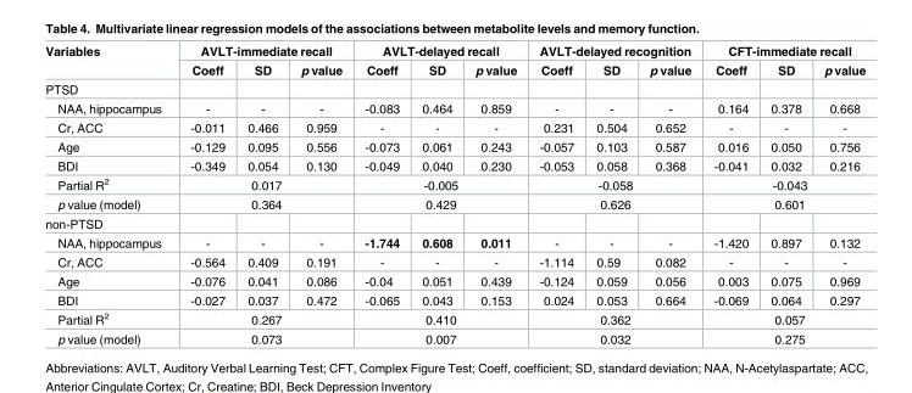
<table><thead><tr><td rowspan="2">Variables</td><td colspan="3">AVLT-immediate recall</td><td colspan="3">AVLT-delayed recall</td><td colspan="3">AVLT-delayed recognition</td><td colspan="3">CFT-immediate recall</td></tr><tr><td>Coeff</td><td>SD</td><td>p value</td><td>Coeff</td><td>SD</td><td>p value</td><td>Coeff</td><td>SD</td><td>p value</td><td>Coeff</td><td>SD</td><td>p value</td></tr></thead><tbody><tr><td colspan="13">PTSD</td></tr><tr><td>NAA, hippocampus</td><td>-</td><td>-</td><td>-</td><td>-0.083</td><td>0.464</td><td>0.859</td><td>-</td><td>-</td><td>-</td><td>0.164</td><td>0.378</td><td>0.668</td></tr><tr><td>Cr, ACC</td><td>-0.011</td><td>0.466</td><td>0.959</td><td>-</td><td>-</td><td>-</td><td>0.231</td><td>0.504</td><td>0.652</td><td>-</td><td>-</td><td>-</td></tr><tr><td>Age</td><td>-0.129</td><td>0.095</td><td>0.556</td><td>-0.073</td><td>0.061</td><td>0.243</td><td>-0.057</td><td>0.103</td><td>0.587</td><td>0.016</td><td>0.050</td><td>0.756</td></tr><tr><td>BDI</td><td>-0.349</td><td>0.054</td><td>0.130</td><td>-0.049</td><td>0.040</td><td>0.230</td><td>-0.053</td><td>0.058</td><td>0.368</td><td>-0.041</td><td>0.032</td><td>0.216</td></tr><tr><td>Partial R<sup>2</sup></td><td colspan="3">0.017</td><td colspan="3">-0.005</td><td colspan="3">-0.058</td><td colspan="3">-0.043</td></tr><tr><td>p value (model)</td><td colspan="3">0.364</td><td colspan="3">0.429</td><td colspan="3">0.626</td><td colspan="3">0.601</td></tr><tr><td colspan="13">non-PTSD</td></tr><tr><td>NAA, hippocampus</td><td>-</td><td>-</td><td>-</td><td>-1.744</td><td>0.608</td><td>0.011</td><td>-</td><td>-</td><td>-</td><td>-1.420</td><td>0.897</td><td>0.132</td></tr><tr><td>Cr, ACC</td><td>-0.564</td><td>0.409</td><td>0.191</td><td>-</td><td>-</td><td>-</td><td>-1.114</td><td>0.59</td><td>0.082</td><td>-</td><td>-</td><td>-</td></tr><tr><td>Age</td><td>-0.076</td><td>0.041</td><td>0.086</td><td>-0.04</td><td>0.051</td><td>0.439</td><td>-0.124</td><td>0.059</td><td>0.056</td><td>0.003</td><td>0.075</td><td>0.969</td></tr><tr><td>BDI</td><td>-0.027</td><td>0.037</td><td>0.472</td><td>-0.065</td><td>0.043</td><td>0.153</td><td>0.024</td><td>0.053</td><td>0.664</td><td>-0.069</td><td>0.064</td><td>0.297</td></tr><tr><td>Partial R<sup>2</sup></td><td colspan="3">0.267</td><td colspan="3">0.410</td><td colspan="3">0.362</td><td colspan="3">0.057</td></tr><tr><td>p value (model)</td><td colspan="3">0.073</td><td colspan="3">0.007</td><td colspan="3">0.032</td><td colspan="3">0.275</td></tr></tbody></table>